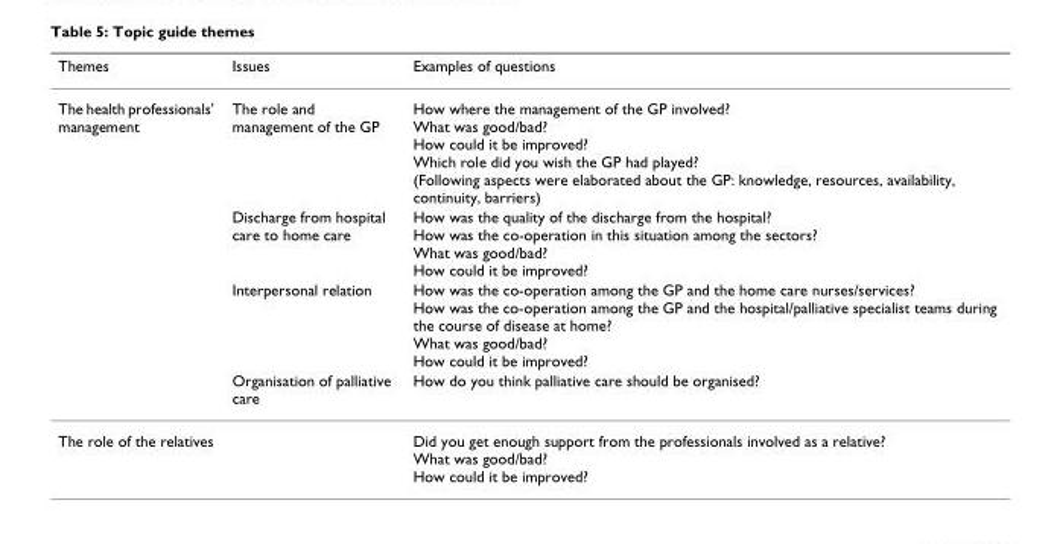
<table><thead><tr><td>Themes</td><td>Issues</td><td>Examples of questions</td></tr></thead><tbody><tr><td rowspan="4">The health professionals&#x27; management</td><td>The role and management of the GP</td><td>How where the management of the GP involved? What was good/bad? How could it be improved? Which role did you wish the GP had played? (Following aspects were elaborated about the GP: knowledge, resources, availability, continuity, barriers)</td></tr><tr><td>Discharge from hospital care to home care</td><td>How was the quality of the discharge from the hospital? How was the co-operation in this situation among the sectors? What was good/bad? How could it be improved?</td></tr><tr><td>Interpersonal relation</td><td>How was the co-operation among the GP and the home care nurses/services? How was the co-operation among the GP and the hospital/palliative specialist teams during the course of disease at home? What was good/bad? How could it be improved?</td></tr><tr><td>Organisation of palliative care</td><td>How do you think palliative care should be organised?</td></tr><tr><td>The role of the relatives</td><td></td><td>Did you get enough support from the professionals involved as a relative? What was good/bad? How could it be improved?</td></tr></tbody></table>